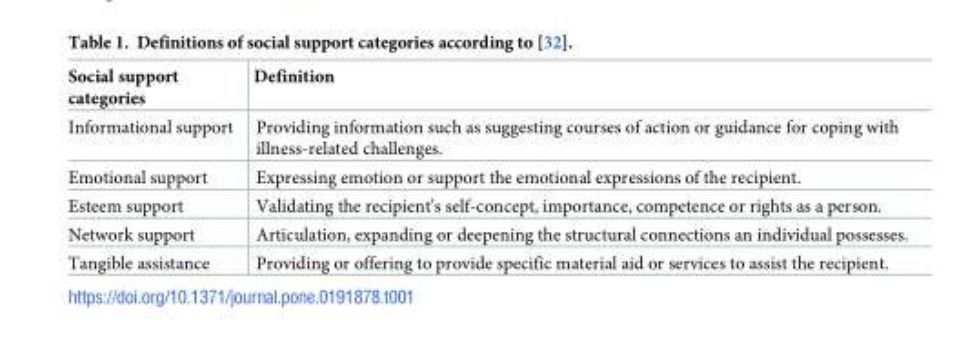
<table><thead><tr><td>Social support categories</td><td>Definition</td></tr></thead><tbody><tr><td>Informational support</td><td>Providing information such as suggesting courses of action or guidance for coping with illness-related challenges.</td></tr><tr><td>Emotional support</td><td>Expressing emotion or support the emotional expressions of the recipient.</td></tr><tr><td>Esteem support</td><td>Validating the recipient’s self-concept, importance, competence or rights as a person.</td></tr><tr><td>Network support</td><td>Articulation, expanding or deepening the structural connections an individual possesses.</td></tr><tr><td>Tangible assistance</td><td>Providing or offering to provide specific material aid or services to assist the recipient.</td></tr></tbody></table>